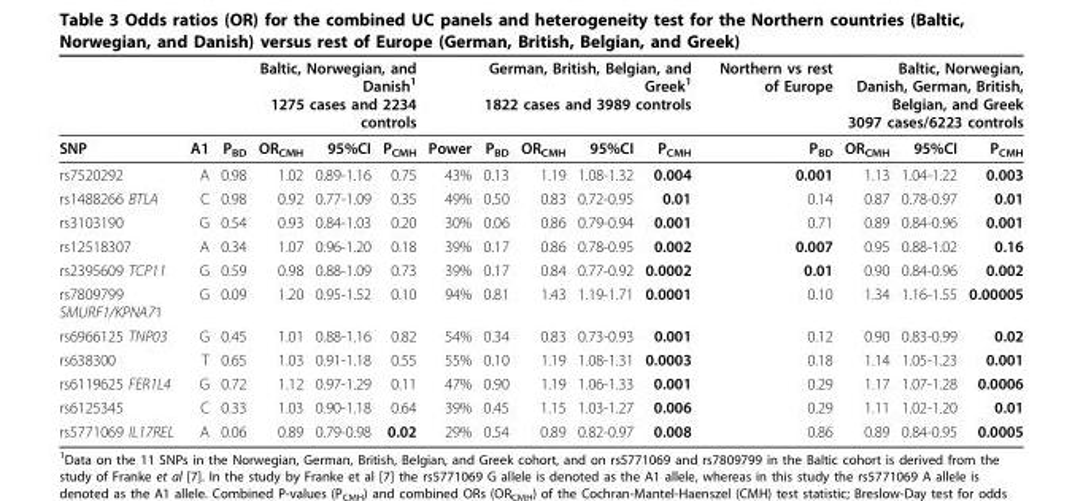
<table><thead><tr><td rowspan="2">SNP</td><td rowspan="2">A1</td><td colspan="4">Baltic, Norwegian, and Danish<sup>1</sup> 1275 cases and 2234 controls</td><td rowspan="2">Power</td><td colspan="4">German, British, Belgian, and Greek<sup>1</sup> 1822 cases and 3989 controls</td><td rowspan="2">Northern vs rest of Europe P<sub>BD</sub></td><td colspan="3">Baltic, Norwegian, Danish, German, British, Belgian, and Greek 3097 cases/6223 controls</td></tr><tr><td>P<sub>BD</sub></td><td>OR<sub>CMH</sub></td><td>95%CI</td><td>P<sub>CMH</sub></td><td>P<sub>BD</sub></td><td>OR<sub>CMH</sub></td><td>95%CI</td><td>P<sub>CMH</sub></td><td>OR<sub>CMH</sub></td><td>95%CI</td><td>P<sub>CMH</sub></td></tr></thead><tbody><tr><td>rs7520292</td><td>A</td><td>0.98</td><td>1.02</td><td>0.89-1.16</td><td>0.75</td><td>43%</td><td>0.13</td><td>1.19</td><td>1.08-1.32</td><td>0.004</td><td>0.001</td><td>1.13</td><td>1.04-1.22</td><td>0.003</td></tr><tr><td>rs1488266 BTLA</td><td>C</td><td>0.98</td><td>0.92</td><td>0.77-1.09</td><td>0.35</td><td>49%</td><td>0.50</td><td>0.83</td><td>0.72-0.95</td><td>0.01</td><td>0.14</td><td>0.87</td><td>0.78-0.97</td><td>0.01</td></tr><tr><td>rs3103190</td><td>G</td><td>0.54</td><td>0.93</td><td>0.84-1.03</td><td>0.20</td><td>30%</td><td>0.06</td><td>0.86</td><td>0.79-0.94</td><td>0.001</td><td>0.71</td><td>0.89</td><td>0.84-0.96</td><td>0.001</td></tr><tr><td>rs12518307</td><td>A</td><td>0.34</td><td>1.07</td><td>0.96-1.20</td><td>0.18</td><td>39%</td><td>0.17</td><td>0.86</td><td>0.78-0.95</td><td>0.002</td><td>0.007</td><td>0.95</td><td>0.88-1.02</td><td>0.16</td></tr><tr><td>rs2395609 TCP11</td><td>G</td><td>0.59</td><td>0.98</td><td>0.88-1.09</td><td>0.73</td><td>39%</td><td>0.17</td><td>0.84</td><td>0.77-0.92</td><td>0.0002</td><td>0.01</td><td>0.90</td><td>0.84-0.96</td><td>0.002</td></tr><tr><td>rs7809799 SMURF1/KPNA71</td><td>G</td><td>0.09</td><td>1.20</td><td>0.95-1.52</td><td>0.10</td><td>94%</td><td>0.81</td><td>1.43</td><td>1.19-1.71</td><td>0.0001</td><td>0.10</td><td>1.34</td><td>1.16-1.55</td><td>0.00005</td></tr><tr><td>rs6966125 TNP03</td><td>G</td><td>0.45</td><td>1.01</td><td>0.88-1.16</td><td>0.82</td><td>54%</td><td>0.34</td><td>0.83</td><td>0.73-0.93</td><td>0.001</td><td>0.12</td><td>0.90</td><td>0.83-0.99</td><td>0.02</td></tr><tr><td>rs638300</td><td>T</td><td>0.65</td><td>1.03</td><td>0.91-1.18</td><td>0.55</td><td>55%</td><td>0.10</td><td>1.19</td><td>1.08-1.31</td><td>0.0003</td><td>0.18</td><td>1.14</td><td>1.05-1.23</td><td>0.001</td></tr><tr><td>rs6119625 FER1L4</td><td>G</td><td>0.72</td><td>1.12</td><td>0.97-1.29</td><td>0.11</td><td>47%</td><td>0.90</td><td>1.19</td><td>1.06-1.33</td><td>0.001</td><td>0.29</td><td>1.17</td><td>1.07-1.28</td><td>0.0006</td></tr><tr><td>rs6125345</td><td>C</td><td>0.33</td><td>1.03</td><td>0.90-1.18</td><td>0.64</td><td>39%</td><td>0.45</td><td>1.15</td><td>1.03-1.27</td><td>0.006</td><td>0.29</td><td>1.11</td><td>1.02-1.20</td><td>0.01</td></tr><tr><td>rs5771069 IL17REL</td><td>A</td><td>0.06</td><td>0.89</td><td>0.79-0.98</td><td>0.02</td><td>29%</td><td>0.54</td><td>0.89</td><td>0.82-0.97</td><td>0.008</td><td>0.86</td><td>0.89</td><td>0.84-0.95</td><td>0.0005</td></tr></tbody></table>